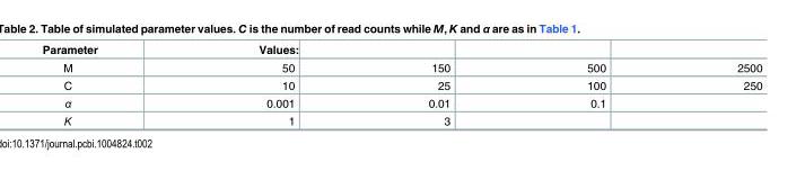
<table><thead><tr><td>Parameter</td><td>Values:</td><td></td><td></td><td></td></tr></thead><tbody><tr><td>M</td><td>50</td><td>150</td><td>500</td><td>2500</td></tr><tr><td>C</td><td>10</td><td>25</td><td>100</td><td>250</td></tr><tr><td>α</td><td>0.001</td><td>0.01</td><td>0.1</td><td></td></tr><tr><td>K</td><td>1</td><td>3</td><td></td><td></td></tr></tbody></table>